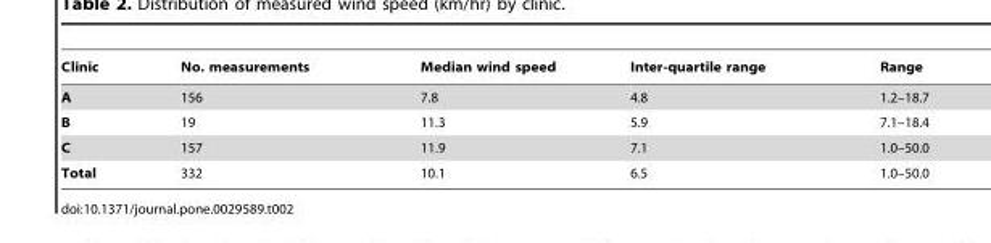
<table><thead><tr><td>Clinic</td><td>No. measurements</td><td>Median wind speed</td><td>Inter-quartile range</td><td>Range</td></tr></thead><tbody><tr><td>A</td><td>156</td><td>7.8</td><td>4.8</td><td>1.2–18.7</td></tr><tr><td>B</td><td>19</td><td>11.3</td><td>5.9</td><td>7.1–18.4</td></tr><tr><td>C</td><td>157</td><td>11.9</td><td>7.1</td><td>1.0–50.0</td></tr><tr><td>Total</td><td>332</td><td>10.1</td><td>6.5</td><td>1.0–50.0</td></tr></tbody></table>